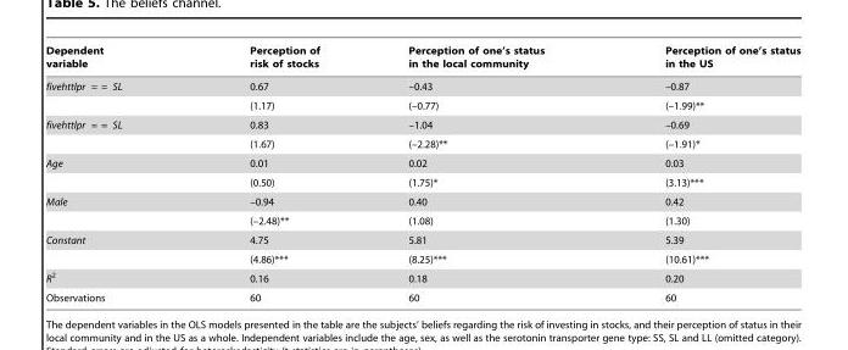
<table><thead><tr><td>Dependent variable</td><td>Perception of risk of stocks</td><td>Perception of one’s status in the local community</td><td>Perception of one’s status in the US</td></tr></thead><tbody><tr><td rowspan="2">fivehttlpr = = SL</td><td>0.67</td><td>–0.43</td><td>–0.87</td></tr><tr><td>(1.17)</td><td>(–0.77)</td><td>(–1.99)**</td></tr><tr><td rowspan="2">fivehttlpr = = SL</td><td>0.83</td><td>–1.04</td><td>–0.69</td></tr><tr><td>(1.67)</td><td>(–2.28)**</td><td>(–1.91)*</td></tr><tr><td rowspan="2">Age</td><td>0.01</td><td>0.02</td><td>0.03</td></tr><tr><td>(0.50)</td><td>(1.75)*</td><td>(3.13)***</td></tr><tr><td rowspan="2">Male</td><td>–0.94</td><td>0.40</td><td>0.42</td></tr><tr><td>(–2.48)**</td><td>(1.08)</td><td>(1.30)</td></tr><tr><td rowspan="2">Constant</td><td>4.75</td><td>5.81</td><td>5.39</td></tr><tr><td>(4.86)***</td><td>(8.25)***</td><td>(10.61)***</td></tr><tr><td>R<sup>2</sup></td><td>0.16</td><td>0.18</td><td>0.20</td></tr><tr><td>Observations</td><td>60</td><td>60</td><td>60</td></tr></tbody></table>